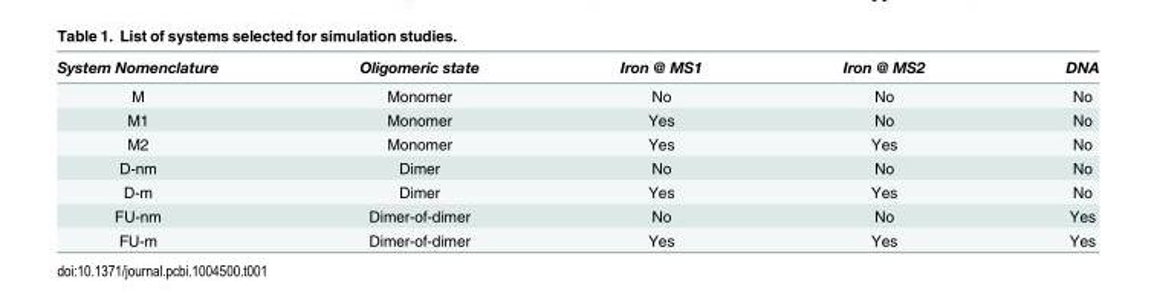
<table><thead><tr><td>System Nomenclature</td><td>Oligomeric state</td><td>Iron @ MS1</td><td>Iron @ MS2</td><td>DNA</td></tr></thead><tbody><tr><td>M</td><td>Monomer</td><td>No</td><td>No</td><td>No</td></tr><tr><td>M1</td><td>Monomer</td><td>Yes</td><td>No</td><td>No</td></tr><tr><td>M2</td><td>Monomer</td><td>Yes</td><td>Yes</td><td>No</td></tr><tr><td>D-nm</td><td>Dimer</td><td>No</td><td>No</td><td>No</td></tr><tr><td>D-m</td><td>Dimer</td><td>Yes</td><td>Yes</td><td>No</td></tr><tr><td>FU-nm</td><td>Dimer-of-dimer</td><td>No</td><td>No</td><td>Yes</td></tr><tr><td>FU-m</td><td>Dimer-of-dimer</td><td>Yes</td><td>Yes</td><td>Yes</td></tr></tbody></table>